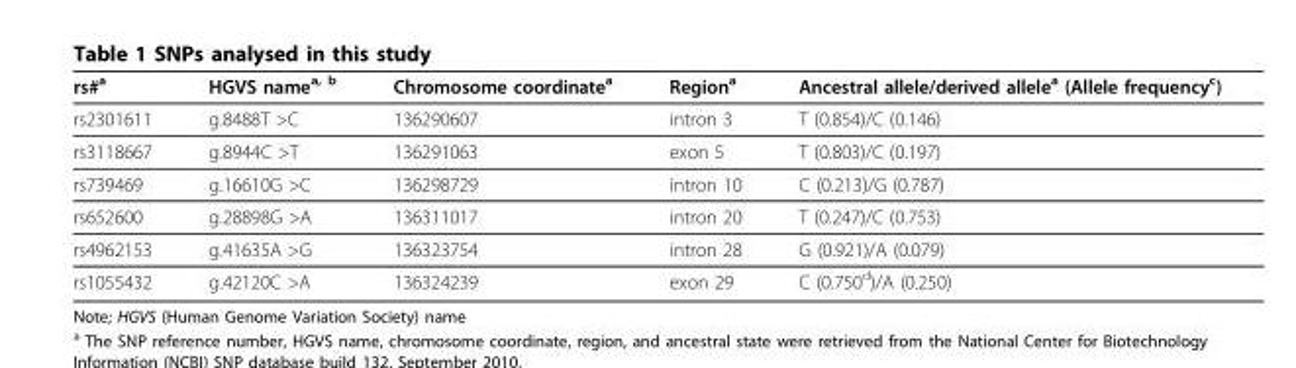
<table><thead><tr><td>rs#<sup>a</sup></td><td>HGVS name<sup>a, b</sup></td><td>Chromosome coordinate<sup>a</sup></td><td>Region<sup>a</sup></td><td>Ancestral allele/derived allele<sup>a</sup> (Allele frequency<sup>c</sup>)</td></tr></thead><tbody><tr><td>rs2301611</td><td>g.8488T &gt;C</td><td>136290607</td><td>intron 3</td><td>T (0.854)/C (0.146)</td></tr><tr><td>rs3118667</td><td>g.8944C &gt;T</td><td>136291063</td><td>exon 5</td><td>T (0.803)/C (0.197)</td></tr><tr><td>rs739469</td><td>g.16610G &gt;C</td><td>136298729</td><td>intron 10</td><td>C (0.213)/G (0.787)</td></tr><tr><td>rs652600</td><td>g.28898G &gt;A</td><td>136311017</td><td>intron 20</td><td>T (0.247)/C (0.753)</td></tr><tr><td>rs4962153</td><td>g.41635A &gt;G</td><td>136323754</td><td>intron 28</td><td>G (0.921)/A (0.079)</td></tr><tr><td>rs1055432</td><td>g.42120C &gt;A</td><td>136324239</td><td>exon 29</td><td>C (0.750<sup>d</sup>)/A (0.250)</td></tr></tbody></table>